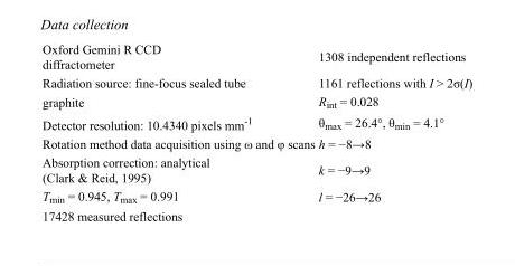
<table><tbody><tr><td>Oxford Gemini R CCD diffractometer</td><td>1308 independent reflections</td></tr><tr><td>Radiation source: fine-focus sealed tube</td><td>1161 reflections with I &gt; 2σ(I)</td></tr><tr><td>graphite</td><td>R<sub>int</sub> = 0.028</td></tr><tr><td>Detector resolution: 10.4340 pixels mm<sup>-1</sup></td><td>θ<sub>max</sub> = 26.4°, θ<sub>min</sub> = 4.1°</td></tr><tr><td>Rotation method data acquisition using ω and φ scans</td><td>h = −8→8</td></tr><tr><td>Absorption correction: analytical (Clark &amp; Reid, 1995)</td><td>k = −9→9</td></tr><tr><td>T<sub>min</sub> = 0.945, T<sub>max</sub> = 0.991</td><td>l = −26→26</td></tr><tr><td>17428 measured reflections</td><td></td></tr></tbody></table>